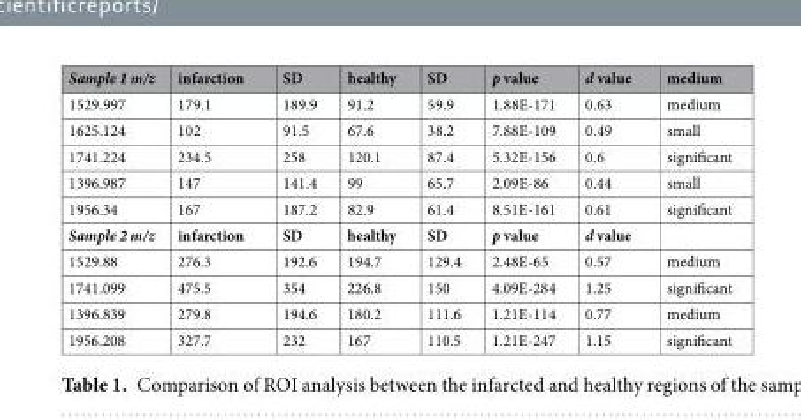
<table><thead><tr><td>Sample 1 m/z</td><td>infarction</td><td>SD</td><td>healthy</td><td>SD</td><td>p value</td><td>d value</td><td>medium</td></tr></thead><tbody><tr><td>1529.997</td><td>179.1</td><td>189.9</td><td>91.2</td><td>59.9</td><td>1.88E-171</td><td>0.63</td><td>medium</td></tr><tr><td>1625.124</td><td>102</td><td>91.5</td><td>67.6</td><td>38.2</td><td>7.88E-109</td><td>0.49</td><td>small</td></tr><tr><td>1741.224</td><td>234.5</td><td>258</td><td>120.1</td><td>87.4</td><td>5.32E-156</td><td>0.6</td><td>significant</td></tr><tr><td>1396.987</td><td>147</td><td>141.4</td><td>99</td><td>65.7</td><td>2.09E-86</td><td>0.44</td><td>small</td></tr><tr><td>1956.34</td><td>167</td><td>187.2</td><td>82.9</td><td>61.4</td><td>8.51E-161</td><td>0.61</td><td>significant</td></tr><tr><td>Sample 2 m/z</td><td>infarction</td><td>SD</td><td>healthy</td><td>SD</td><td>p value</td><td>d value</td><td></td></tr><tr><td>1529.88</td><td>276.3</td><td>192.6</td><td>194.7</td><td>129.4</td><td>2.48E-65</td><td>0.57</td><td>medium</td></tr><tr><td>1741.099</td><td>475.5</td><td>354</td><td>226.8</td><td>150</td><td>4.09E-284</td><td>1.25</td><td>significant</td></tr><tr><td>1396.839</td><td>279.8</td><td>194.6</td><td>180.2</td><td>111.6</td><td>1.21E-114</td><td>0.77</td><td>medium</td></tr><tr><td>1956.208</td><td>327.7</td><td>232</td><td>167</td><td>110.5</td><td>1.21E-247</td><td>1.15</td><td>significant</td></tr></tbody></table>